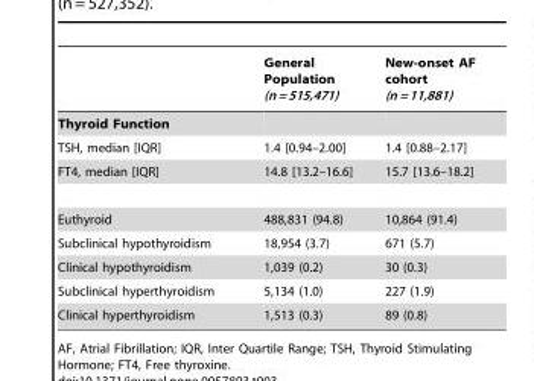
<table><thead><tr><td></td><td>General Population (n = 515,471)</td><td>New-onset AF cohort (n = 11,881)</td></tr></thead><tbody><tr><td colspan="3">Thyroid Function</td></tr><tr><td>TSH, median [IQR]</td><td>1.4 [0.94–2.00]</td><td>1.4 [0.88–2.17]</td></tr><tr><td>FT4, median [IQR]</td><td>14.8 [13.2–16.6]</td><td>15.7 [13.6–18.2]</td></tr><tr><td>Euthyroid</td><td>488,831 (94.8)</td><td>10,864 (91.4)</td></tr><tr><td>Subclinical hypothyroidism</td><td>18,954 (3.7)</td><td>671 (5.7)</td></tr><tr><td>Clinical hypothyroidism</td><td>1,039 (0.2)</td><td>30 (0.3)</td></tr><tr><td>Subclinical hyperthyroidism</td><td>5,134 (1.0)</td><td>227 (1.9)</td></tr><tr><td>Clinical hyperthyroidism</td><td>1,513 (0.3)</td><td>89 (0.8)</td></tr></tbody></table>